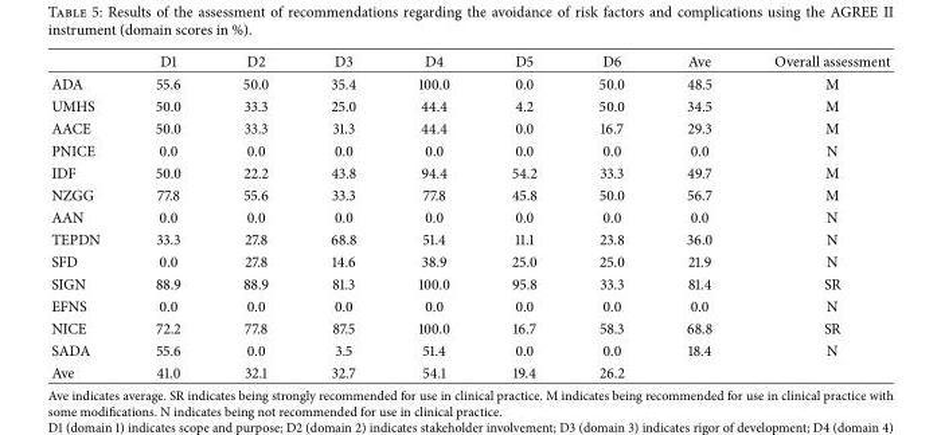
<table><thead><tr><td></td><td>D1</td><td>D2</td><td>D3</td><td>D4</td><td>D5</td><td>D6</td><td>Ave</td><td>Overall assessment</td></tr></thead><tbody><tr><td>ADA</td><td>55.6</td><td>50.0</td><td>35.4</td><td>100.0</td><td>0.0</td><td>50.0</td><td>48.5</td><td>M</td></tr><tr><td>UMHS</td><td>50.0</td><td>33.3</td><td>25.0</td><td>44.4</td><td>4.2</td><td>50.0</td><td>34.5</td><td>M</td></tr><tr><td>AACE</td><td>50.0</td><td>33.3</td><td>31.3</td><td>44.4</td><td>0.0</td><td>16.7</td><td>29.3</td><td>M</td></tr><tr><td>PNICE</td><td>0.0</td><td>0.0</td><td>0.0</td><td>0.0</td><td>0.0</td><td>0.0</td><td>0.0</td><td>N</td></tr><tr><td>IDF</td><td>50.0</td><td>22.2</td><td>43.8</td><td>94.4</td><td>54.2</td><td>33.3</td><td>49.7</td><td>M</td></tr><tr><td>NZGG</td><td>77.8</td><td>55.6</td><td>33.3</td><td>77.8</td><td>45.8</td><td>50.0</td><td>56.7</td><td>M</td></tr><tr><td>AAN</td><td>0.0</td><td>0.0</td><td>0.0</td><td>0.0</td><td>0.0</td><td>0.0</td><td>0.0</td><td>N</td></tr><tr><td>TEPDN</td><td>33.3</td><td>27.8</td><td>68.8</td><td>51.4</td><td>11.1</td><td>23.8</td><td>36.0</td><td>N</td></tr><tr><td>SFD</td><td>0.0</td><td>27.8</td><td>14.6</td><td>38.9</td><td>25.0</td><td>25.0</td><td>21.9</td><td>N</td></tr><tr><td>SIGN</td><td>88.9</td><td>88.9</td><td>81.3</td><td>100.0</td><td>95.8</td><td>33.3</td><td>81.4</td><td>SR</td></tr><tr><td>EFNS</td><td>0.0</td><td>0.0</td><td>0.0</td><td>0.0</td><td>0.0</td><td>0.0</td><td>0.0</td><td>N</td></tr><tr><td>NICE</td><td>72.2</td><td>77.8</td><td>87.5</td><td>100.0</td><td>16.7</td><td>58.3</td><td>68.8</td><td>SR</td></tr><tr><td>SADA</td><td>55.6</td><td>0.0</td><td>3.5</td><td>51.4</td><td>0.0</td><td>0.0</td><td>18.4</td><td>N</td></tr><tr><td>Ave</td><td>41.0</td><td>32.1</td><td>32.7</td><td>54.1</td><td>19.4</td><td>26.2</td><td></td><td></td></tr></tbody></table>